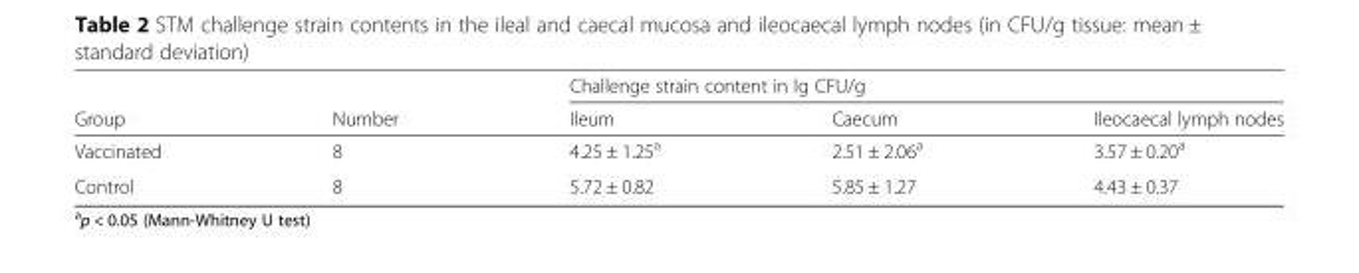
<table><thead><tr><td rowspan="2">Group</td><td rowspan="2">Number</td><td colspan="3">Challenge strain content in lg CFU/g</td></tr><tr><td>Ileum</td><td>Caecum</td><td>Ileocaecal lymph nodes</td></tr></thead><tbody><tr><td>Vaccinated</td><td>8</td><td>4.25 ± 1.25<sup>a</sup></td><td>2.51 ± 2.06<sup>a</sup></td><td>3.57 ± 0.20<sup>a</sup></td></tr><tr><td>Control</td><td>8</td><td>5.72 ± 0.82</td><td>5.85 ± 1.27</td><td>4.43 ± 0.37</td></tr></tbody></table>